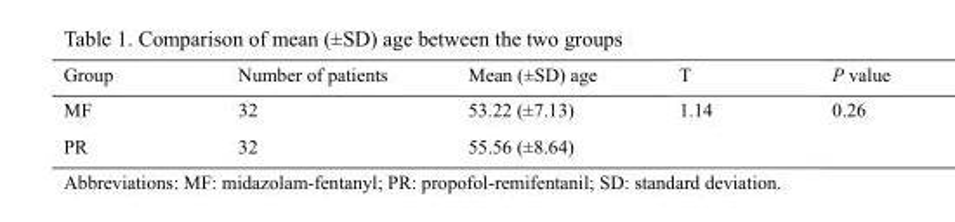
<table><thead><tr><td>Group</td><td>Number of patients</td><td>Mean (±SD) age</td><td>T</td><td>P value</td></tr></thead><tbody><tr><td>MF</td><td>32</td><td>53.22 (±7.13)</td><td rowspan="2">1.14</td><td rowspan="2">0.26</td></tr><tr><td>PR</td><td>32</td><td>55.56 (±8.64)</td></tr></tbody></table>